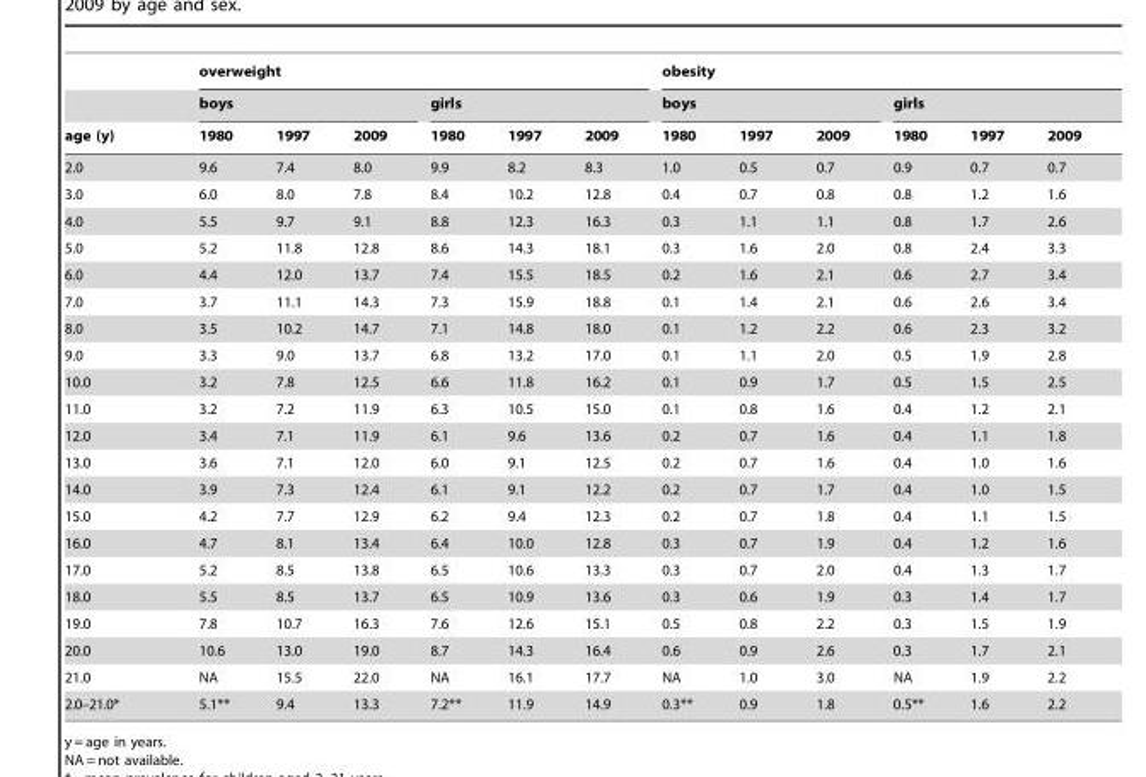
<table><thead><tr><td rowspan="3">age (y)</td><td colspan="6">overweight</td><td colspan="6">obesity</td></tr><tr><td colspan="3">boys</td><td colspan="3">girls</td><td colspan="3">boys</td><td colspan="3">girls</td></tr><tr><td>1980</td><td>1997</td><td>2009</td><td>1980</td><td>1997</td><td>2009</td><td>1980</td><td>1997</td><td>2009</td><td>1980</td><td>1997</td><td>2009</td></tr></thead><tbody><tr><td>2.0</td><td>9.6</td><td>7.4</td><td>8.0</td><td>9.9</td><td>8.2</td><td>8.3</td><td>1.0</td><td>0.5</td><td>0.7</td><td>0.9</td><td>0.7</td><td>0.7</td></tr><tr><td>3.0</td><td>6.0</td><td>8.0</td><td>7.8</td><td>8.4</td><td>10.2</td><td>12.8</td><td>0.4</td><td>0.7</td><td>0.8</td><td>0.8</td><td>1.2</td><td>1.6</td></tr><tr><td>4.0</td><td>5.5</td><td>9.7</td><td>9.1</td><td>8.8</td><td>12.3</td><td>16.3</td><td>0.3</td><td>1.1</td><td>1.1</td><td>0.8</td><td>1.7</td><td>2.6</td></tr><tr><td>5.0</td><td>5.2</td><td>11.8</td><td>12.8</td><td>8.6</td><td>14.3</td><td>18.1</td><td>0.3</td><td>1.6</td><td>2.0</td><td>0.8</td><td>2.4</td><td>3.3</td></tr><tr><td>6.0</td><td>4.4</td><td>12.0</td><td>13.7</td><td>7.4</td><td>15.5</td><td>18.5</td><td>0.2</td><td>1.6</td><td>2.1</td><td>0.6</td><td>2.7</td><td>3.4</td></tr><tr><td>7.0</td><td>3.7</td><td>11.1</td><td>14.3</td><td>7.3</td><td>15.9</td><td>18.8</td><td>0.1</td><td>1.4</td><td>2.1</td><td>0.6</td><td>2.6</td><td>3.4</td></tr><tr><td>8.0</td><td>3.5</td><td>10.2</td><td>14.7</td><td>7.1</td><td>14.8</td><td>18.0</td><td>0.1</td><td>1.2</td><td>2.2</td><td>0.6</td><td>2.3</td><td>3.2</td></tr><tr><td>9.0</td><td>3.3</td><td>9.0</td><td>13.7</td><td>6.8</td><td>13.2</td><td>17.0</td><td>0.1</td><td>1.1</td><td>2.0</td><td>0.5</td><td>1.9</td><td>2.8</td></tr><tr><td>10.0</td><td>3.2</td><td>7.8</td><td>12.5</td><td>6.6</td><td>11.8</td><td>16.2</td><td>0.1</td><td>0.9</td><td>1.7</td><td>0.5</td><td>1.5</td><td>2.5</td></tr><tr><td>11.0</td><td>3.2</td><td>7.2</td><td>11.9</td><td>6.3</td><td>10.5</td><td>15.0</td><td>0.1</td><td>0.8</td><td>1.6</td><td>0.4</td><td>1.2</td><td>2.1</td></tr><tr><td>12.0</td><td>3.4</td><td>7.1</td><td>11.9</td><td>6.1</td><td>9.6</td><td>13.6</td><td>0.2</td><td>0.7</td><td>1.6</td><td>0.4</td><td>1.1</td><td>1.8</td></tr><tr><td>13.0</td><td>3.6</td><td>7.1</td><td>12.0</td><td>6.0</td><td>9.1</td><td>12.5</td><td>0.2</td><td>0.7</td><td>1.6</td><td>0.4</td><td>1.0</td><td>1.6</td></tr><tr><td>14.0</td><td>3.9</td><td>7.3</td><td>12.4</td><td>6.1</td><td>9.1</td><td>12.2</td><td>0.2</td><td>0.7</td><td>1.7</td><td>0.4</td><td>1.0</td><td>1.5</td></tr><tr><td>15.0</td><td>4.2</td><td>7.7</td><td>12.9</td><td>6.2</td><td>9.4</td><td>12.3</td><td>0.2</td><td>0.7</td><td>1.8</td><td>0.4</td><td>1.1</td><td>1.5</td></tr><tr><td>16.0</td><td>4.7</td><td>8.1</td><td>13.4</td><td>6.4</td><td>10.0</td><td>12.8</td><td>0.3</td><td>0.7</td><td>1.9</td><td>0.4</td><td>1.2</td><td>1.6</td></tr><tr><td>17.0</td><td>5.2</td><td>8.5</td><td>13.8</td><td>6.5</td><td>10.6</td><td>13.3</td><td>0.3</td><td>0.7</td><td>2.0</td><td>0.4</td><td>1.3</td><td>1.7</td></tr><tr><td>18.0</td><td>5.5</td><td>8.5</td><td>13.7</td><td>6.5</td><td>10.9</td><td>13.6</td><td>0.3</td><td>0.6</td><td>1.9</td><td>0.3</td><td>1.4</td><td>1.7</td></tr><tr><td>19.0</td><td>7.8</td><td>10.7</td><td>16.3</td><td>7.6</td><td>12.6</td><td>15.1</td><td>0.5</td><td>0.8</td><td>2.2</td><td>0.3</td><td>1.5</td><td>1.9</td></tr><tr><td>20.0</td><td>10.6</td><td>13.0</td><td>19.0</td><td>8.7</td><td>14.3</td><td>16.4</td><td>0.6</td><td>0.9</td><td>2.6</td><td>0.3</td><td>1.7</td><td>2.1</td></tr><tr><td>21.0</td><td>NA</td><td>15.5</td><td>22.0</td><td>NA</td><td>16.1</td><td>17.7</td><td>NA</td><td>1.0</td><td>3.0</td><td>NA</td><td>1.9</td><td>2.2</td></tr><tr><td>2.0–21.0*</td><td>5.1**</td><td>9.4</td><td>13.3</td><td>7.2**</td><td>11.9</td><td>14.9</td><td>0.3**</td><td>0.9</td><td>1.8</td><td>0.5**</td><td>1.6</td><td>2.2</td></tr></tbody></table>